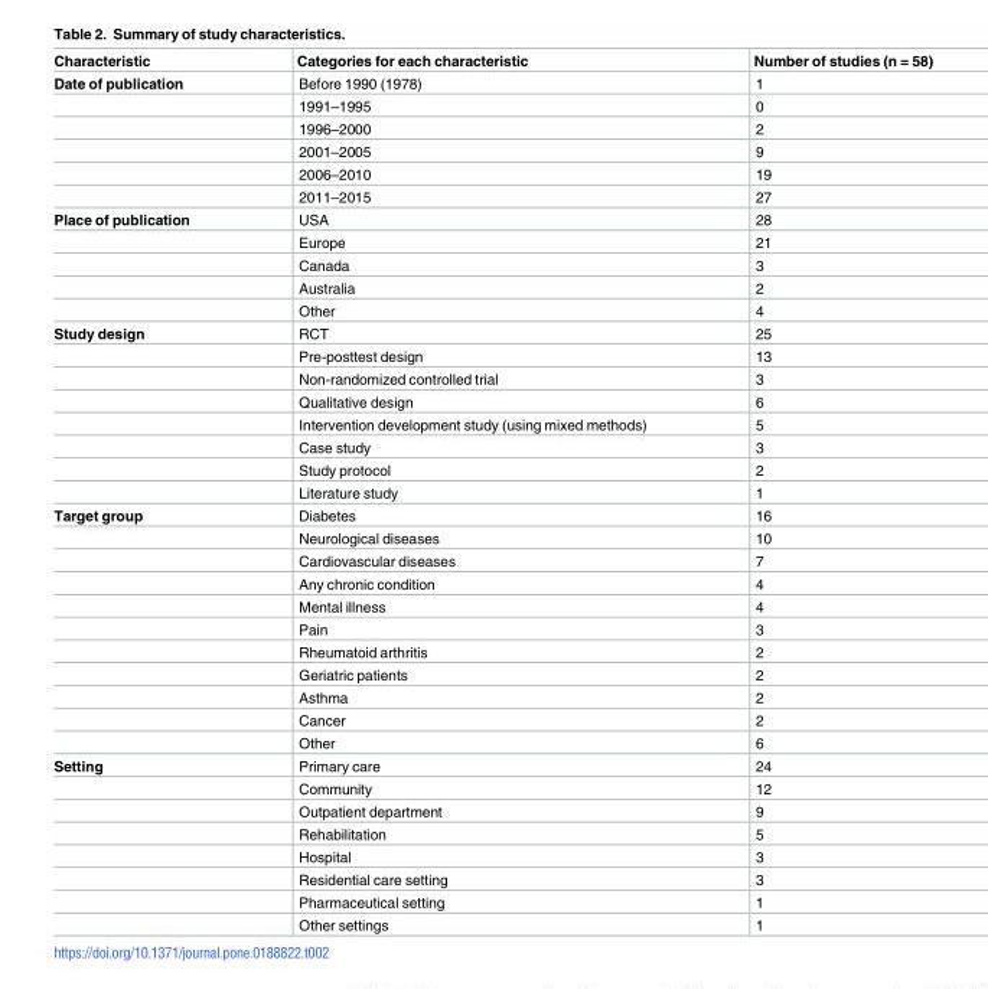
<table><thead><tr><td>Characteristic</td><td>Categories for each characteristic</td><td>Number of studies (n = 58)</td></tr></thead><tbody><tr><td rowspan="6">Date of publication</td><td>Before 1990 (1978)</td><td>1</td></tr><tr><td>1991–1995</td><td>0</td></tr><tr><td>1996–2000</td><td>2</td></tr><tr><td>2001–2005</td><td>9</td></tr><tr><td>2006–2010</td><td>19</td></tr><tr><td>2011–2015</td><td>27</td></tr><tr><td rowspan="5">Place of publication</td><td>USA</td><td>28</td></tr><tr><td>Europe</td><td>21</td></tr><tr><td>Canada</td><td>3</td></tr><tr><td>Australia</td><td>2</td></tr><tr><td>Other</td><td>4</td></tr><tr><td rowspan="8">Study design</td><td>RCT</td><td>25</td></tr><tr><td>Pre-posttest design</td><td>13</td></tr><tr><td>Non-randomized controlled trial</td><td>3</td></tr><tr><td>Qualitative design</td><td>6</td></tr><tr><td>Intervention development study (using mixed methods)</td><td>5</td></tr><tr><td>Case study</td><td>3</td></tr><tr><td>Study protocol</td><td>2</td></tr><tr><td>Literature study</td><td>1</td></tr><tr><td rowspan="11">Target group</td><td>Diabetes</td><td>16</td></tr><tr><td>Neurological diseases</td><td>10</td></tr><tr><td>Cardiovascular diseases</td><td>7</td></tr><tr><td>Any chronic condition</td><td>4</td></tr><tr><td>Mental illness</td><td>4</td></tr><tr><td>Pain</td><td>3</td></tr><tr><td>Rheumatoid arthritis</td><td>2</td></tr><tr><td>Geriatric patients</td><td>2</td></tr><tr><td>Asthma</td><td>2</td></tr><tr><td>Cancer</td><td>2</td></tr><tr><td>Other</td><td>6</td></tr><tr><td rowspan="8">Setting</td><td>Primary care</td><td>24</td></tr><tr><td>Community</td><td>12</td></tr><tr><td>Outpatient department</td><td>9</td></tr><tr><td>Rehabilitation</td><td>5</td></tr><tr><td>Hospital</td><td>3</td></tr><tr><td>Residential care setting</td><td>3</td></tr><tr><td>Pharmaceutical setting</td><td>1</td></tr><tr><td>Other settings</td><td>1</td></tr></tbody></table>